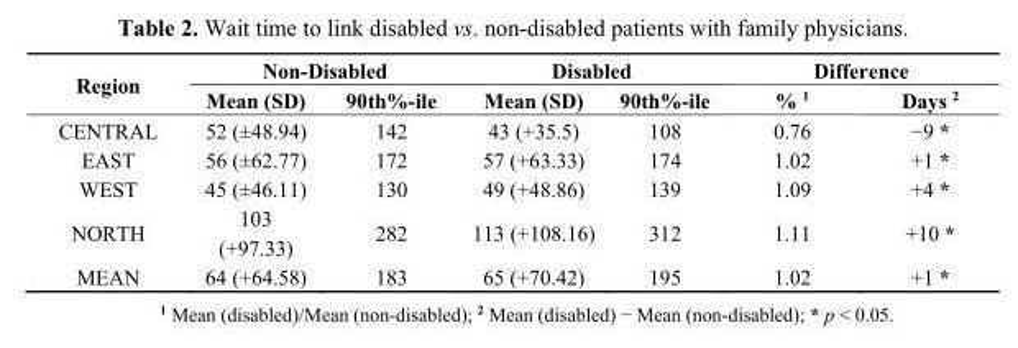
<table><thead><tr><td rowspan="2">Region</td><td colspan="2">Non-Disabled</td><td colspan="2">Disabled</td><td colspan="2">Difference</td></tr><tr><td>Mean (SD)</td><td>90th%-ile</td><td>Mean (SD)</td><td>90th%-ile</td><td>% <sup>1</sup></td><td>Days <sup>2</sup></td></tr></thead><tbody><tr><td>CENTRAL</td><td>52 (±48.94)</td><td>142</td><td>43 (+35.5)</td><td>108</td><td>0.76</td><td>−9 *</td></tr><tr><td>EAST</td><td>56 (±62.77)</td><td>172</td><td>57 (+63.33)</td><td>174</td><td>1.02</td><td>+1 *</td></tr><tr><td>WEST</td><td>45 (±46.11)</td><td>130</td><td>49 (+48.86)</td><td>139</td><td>1.09</td><td>+4 *</td></tr><tr><td>NORTH</td><td>103 (+97.33)</td><td>282</td><td>113 (+108.16)</td><td>312</td><td>1.11</td><td>+10 *</td></tr><tr><td>MEAN</td><td>64 (+64.58)</td><td>183</td><td>65 (+70.42)</td><td>195</td><td>1.02</td><td>+1 *</td></tr></tbody></table>